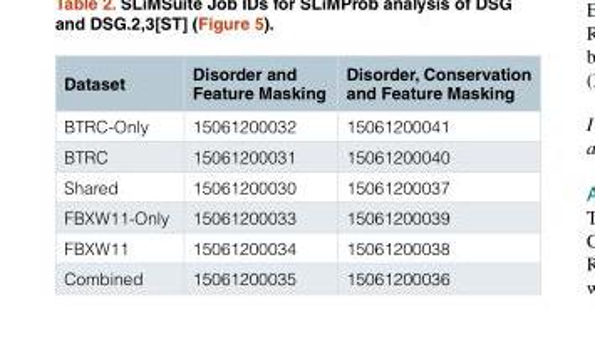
<table><thead><tr><td>Dataset</td><td>Disorder and Feature Masking</td><td>Disorder, Conservation and Feature Masking</td></tr></thead><tbody><tr><td>BTRC-Only</td><td>15061200032</td><td>15061200041</td></tr><tr><td>BTRC</td><td>15061200031</td><td>15061200040</td></tr><tr><td>Shared</td><td>15061200030</td><td>15061200037</td></tr><tr><td>FBXW11-Only</td><td>15061200033</td><td>15061200039</td></tr><tr><td>FBXW11</td><td>15061200034</td><td>15061200038</td></tr><tr><td>Combined</td><td>15061200035</td><td>15061200036</td></tr></tbody></table>